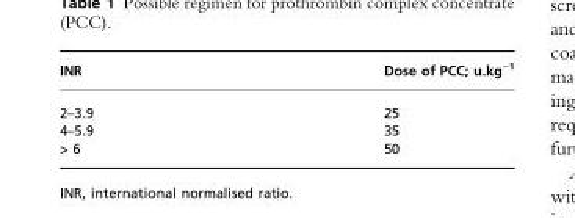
<table><thead><tr><td>INR</td><td>Dose of PCC; u.kg<sup>−1</sup></td></tr></thead><tbody><tr><td>2–3.9</td><td>25</td></tr><tr><td>4–5.9</td><td>35</td></tr><tr><td>&gt; 6</td><td>50</td></tr></tbody></table>